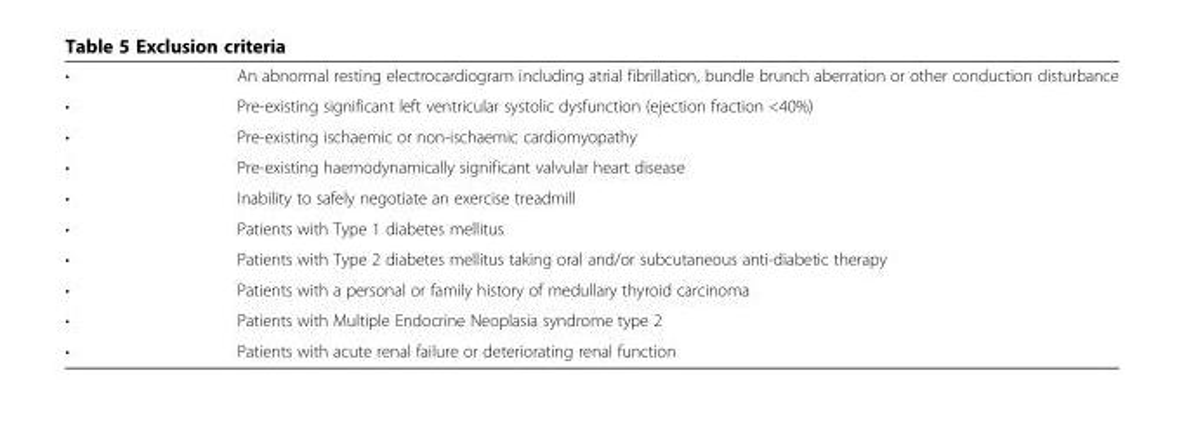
<table><tbody><tr><td>•</td><td>An abnormal resting electrocardiogram including atrial fibrillation, bundle brunch aberration or other conduction disturbance</td></tr><tr><td>•</td><td>Pre-existing significant left ventricular systolic dysfunction (ejection fraction &lt;40%)</td></tr><tr><td>•</td><td>Pre-existing ischaemic or non-ischaemic cardiomyopathy</td></tr><tr><td>•</td><td>Pre-existing haemodynamically significant valvular heart disease</td></tr><tr><td>•</td><td>Inability to safely negotiate an exercise treadmill</td></tr><tr><td>•</td><td>Patients with Type 1 diabetes mellitus</td></tr><tr><td>•</td><td>Patients with Type 2 diabetes mellitus taking oral and/or subcutaneous anti-diabetic therapy</td></tr><tr><td>•</td><td>Patients with a personal or family history of medullary thyroid carcinoma</td></tr><tr><td>•</td><td>Patients with Multiple Endocrine Neoplasia syndrome type 2</td></tr><tr><td>•</td><td>Patients with acute renal failure or deteriorating renal function</td></tr></tbody></table>